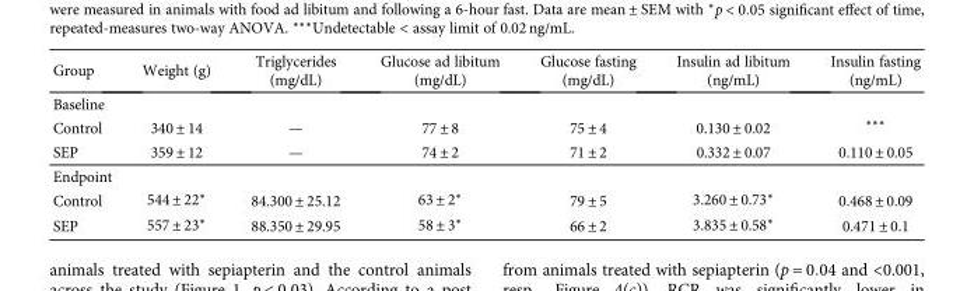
<table><thead><tr><td>Group</td><td>Weight (g)</td><td>Triglycerides (mg/dL)</td><td>Glucose ad libitum (mg/dL)</td><td>Glucose fasting (mg/dL)</td><td>Insulin ad libitum (ng/mL)</td><td>Insulin fasting (ng/mL)</td></tr></thead><tbody><tr><td colspan="7">Baseline</td></tr><tr><td>Control</td><td>340 ± 14</td><td>—</td><td>77 ± 8</td><td>75 ± 4</td><td>0.130 ± 0.02</td><td>∗∗∗</td></tr><tr><td>SEP</td><td>359 ± 12</td><td>—</td><td>74 ± 2</td><td>71 ± 2</td><td>0.332 ± 0.07</td><td>0.110 ± 0.05</td></tr><tr><td colspan="7">Endpoint</td></tr><tr><td>Control</td><td>544 ± 22∗</td><td>84.300 ± 25.12</td><td>63 ± 2∗</td><td>79 ± 5</td><td>3.260 ± 0.73∗</td><td>0.468 ± 0.09</td></tr><tr><td>SEP</td><td>557 ± 23∗</td><td>88.350 ± 29.95</td><td>58 ± 3∗</td><td>66 ± 2</td><td>3.835 ± 0.58∗</td><td>0.471 ± 0.1</td></tr></tbody></table>